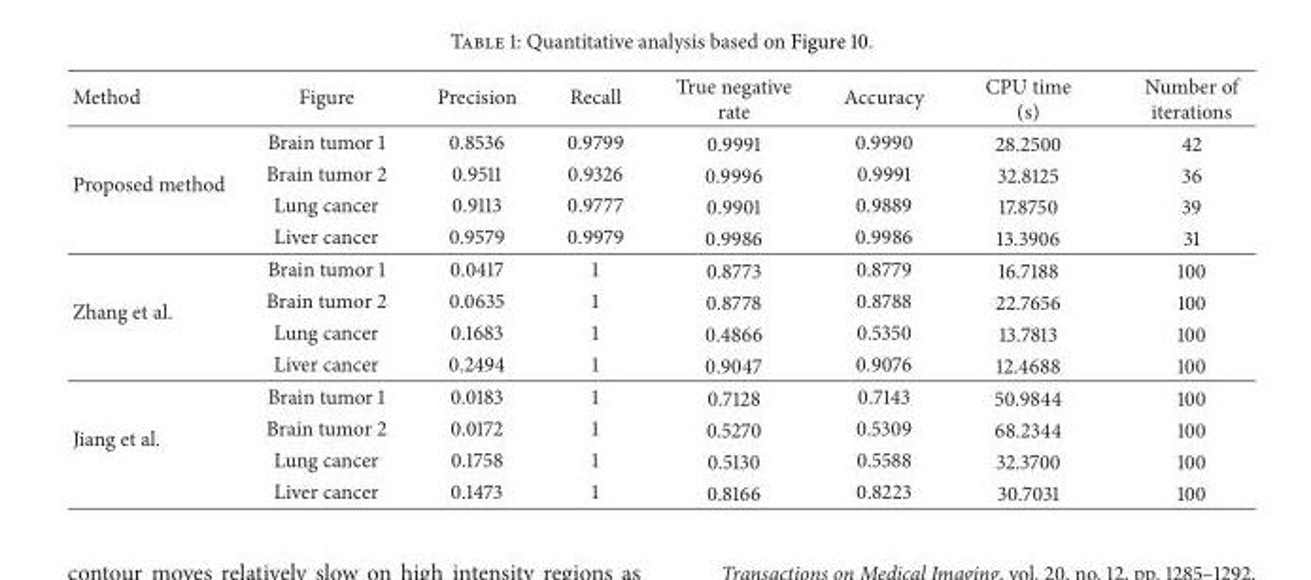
<table><thead><tr><td>Method</td><td>Figure</td><td>Precision</td><td>Recall</td><td>True negative rate</td><td>Accuracy</td><td>CPU time (s)</td><td>Number of iterations</td></tr></thead><tbody><tr><td rowspan="4">Proposed method</td><td>Brain tumor 1</td><td>0.8536</td><td>0.9799</td><td>0.9991</td><td>0.9990</td><td>28.2500</td><td>42</td></tr><tr><td>Brain tumor 2</td><td>0.9511</td><td>0.9326</td><td>0.9996</td><td>0.9991</td><td>32.8125</td><td>36</td></tr><tr><td>Lung cancer</td><td>0.9113</td><td>0.9777</td><td>0.9901</td><td>0.9889</td><td>17.8750</td><td>39</td></tr><tr><td>Liver cancer</td><td>0.9579</td><td>0.9979</td><td>0.9986</td><td>0.9986</td><td>13.3906</td><td>31</td></tr><tr><td rowspan="4">Zhang et al.</td><td>Brain tumor 1</td><td>0.0417</td><td>1</td><td>0.8773</td><td>0.8779</td><td>16.7188</td><td>100</td></tr><tr><td>Brain tumor 2</td><td>0.0635</td><td>1</td><td>0.8778</td><td>0.8788</td><td>22.7656</td><td>100</td></tr><tr><td>Lung cancer</td><td>0.1683</td><td>1</td><td>0.4866</td><td>0.5350</td><td>13.7813</td><td>100</td></tr><tr><td>Liver cancer</td><td>0.2494</td><td>1</td><td>0.9047</td><td>0.9076</td><td>12.4688</td><td>100</td></tr><tr><td rowspan="4">Jiang et al.</td><td>Brain tumor 1</td><td>0.0183</td><td>1</td><td>0.7128</td><td>0.7143</td><td>50.9844</td><td>100</td></tr><tr><td>Brain tumor 2</td><td>0.0172</td><td>1</td><td>0.5270</td><td>0.5309</td><td>68.2344</td><td>100</td></tr><tr><td>Lung cancer</td><td>0.1758</td><td>1</td><td>0.5130</td><td>0.5588</td><td>32.3700</td><td>100</td></tr><tr><td>Liver cancer</td><td>0.1473</td><td>1</td><td>0.8166</td><td>0.8223</td><td>30.7031</td><td>100</td></tr></tbody></table>